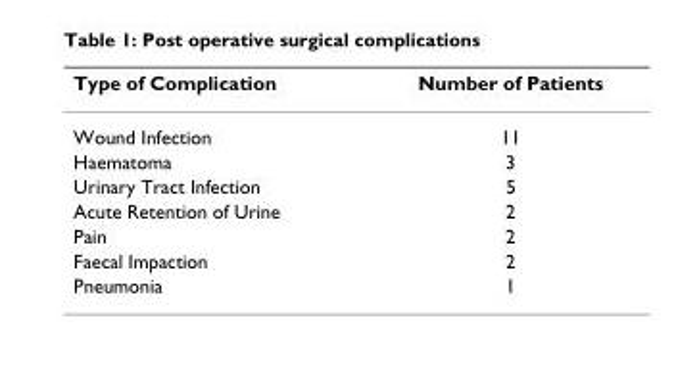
<table><thead><tr><td>Type of Complication</td><td>Number of Patients</td></tr></thead><tbody><tr><td>Wound Infection</td><td>11</td></tr><tr><td>Haematoma</td><td>3</td></tr><tr><td>Urinary Tract Infection</td><td>5</td></tr><tr><td>Acute Retention of Urine</td><td>2</td></tr><tr><td>Pain</td><td>2</td></tr><tr><td>Faecal Impaction</td><td>2</td></tr><tr><td>Pneumonia</td><td>1</td></tr></tbody></table>